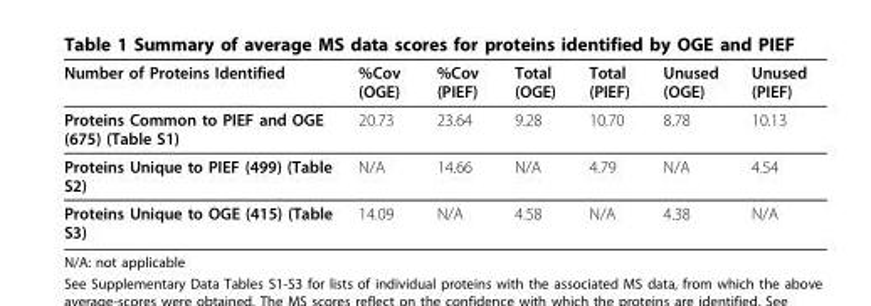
<table><thead><tr><td>Number of Proteins Identified</td><td>%Cov (OGE)</td><td>%Cov (PIEF)</td><td>Total (OGE)</td><td>Total (PIEF)</td><td>Unused (OGE)</td><td>Unused (PIEF)</td></tr></thead><tbody><tr><td>Proteins Common to PIEF and OGE (675) (Table S1)</td><td>20.73</td><td>23.64</td><td>9.28</td><td>10.70</td><td>8.78</td><td>10.13</td></tr><tr><td>Proteins Unique to PIEF (499) (Table S2)</td><td>N/A</td><td>14.66</td><td>N/A</td><td>4.79</td><td>N/A</td><td>4.54</td></tr><tr><td>Proteins Unique to OGE (415) (Table S3)</td><td>14.09</td><td>N/A</td><td>4.58</td><td>N/A</td><td>4.38</td><td>N/A</td></tr></tbody></table>